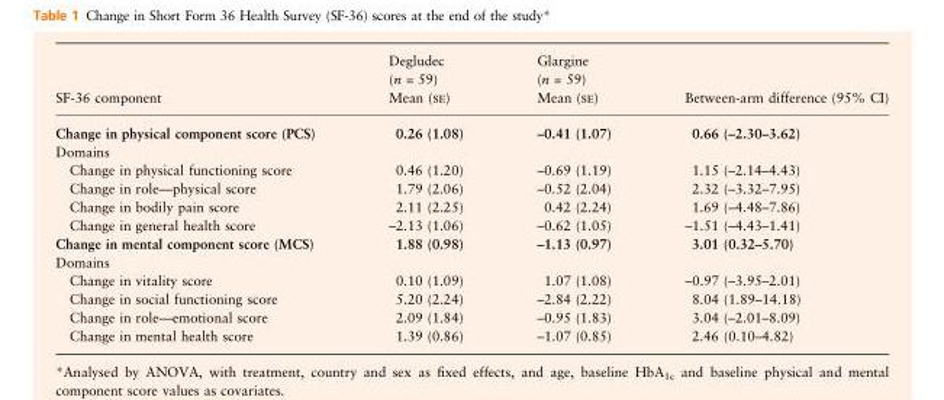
<table><thead><tr><td>SF-36 component</td><td>Degludec (n = 59) Mean (se)</td><td>Glargine (n = 59) Mean (se)</td><td>Between-arm difference (95% CI)</td></tr></thead><tbody><tr><td>Change in physical component score (PCS)</td><td>0.26 (1.08)</td><td>–0.41 (1.07)</td><td>0.66 (–2.30–3.62)</td></tr><tr><td colspan="4">Domains</td></tr><tr><td>Change in physical functioning score</td><td>0.46 (1.20)</td><td>–0.69 (1.19)</td><td>1.15 (–2.14–4.43)</td></tr><tr><td>Change in role—physical score</td><td>1.79 (2.06)</td><td>–0.52 (2.04)</td><td>2.32 (–3.32–7.95)</td></tr><tr><td>Change in bodily pain score</td><td>2.11 (2.25)</td><td>0.42 (2.24)</td><td>1.69 (–4.48–7.86)</td></tr><tr><td>Change in general health score</td><td>–2.13 (1.06)</td><td>–0.62 (1.05)</td><td>–1.51 (–4.43–1.41)</td></tr><tr><td>Change in mental component score (MCS)</td><td>1.88 (0.98)</td><td>–1.13 (0.97)</td><td>3.01 (0.32–5.70)</td></tr><tr><td colspan="4">Domains</td></tr><tr><td>Change in vitality score</td><td>0.10 (1.09)</td><td>1.07 (1.08)</td><td>–0.97 (–3.95–2.01)</td></tr><tr><td>Change in social functioning score</td><td>5.20 (2.24)</td><td>–2.84 (2.22)</td><td>8.04 (1.89–14.18)</td></tr><tr><td>Change in role—emotional score</td><td>2.09 (1.84)</td><td>–0.95 (1.83)</td><td>3.04 (–2.01–8.09)</td></tr><tr><td>Change in mental health score</td><td>1.39 (0.86)</td><td>–1.07 (0.85)</td><td>2.46 (0.10–4.82)</td></tr></tbody></table>